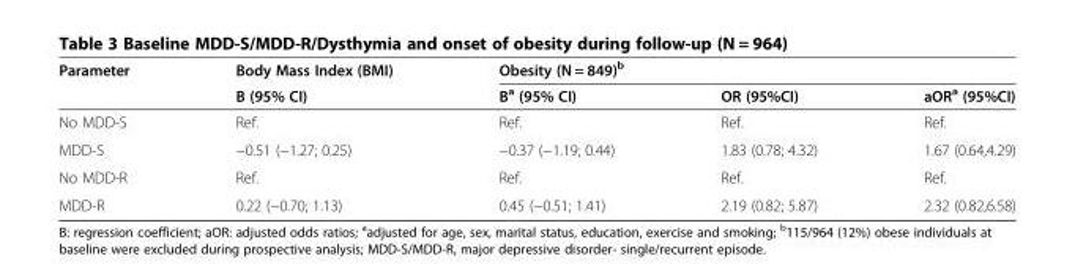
<table><thead><tr><td rowspan="2">Parameter</td><td rowspan="2">Body Mass Index (BMI) B (95% CI)</td><td colspan="3">Obesity (N = 849)<sup>b</sup></td></tr><tr><td>B<sup>a</sup> (95% CI)</td><td>OR (95%CI)</td><td>aOR<sup>a</sup> (95%CI)</td></tr></thead><tbody><tr><td>No MDD-S</td><td>Ref.</td><td>Ref.</td><td>Ref.</td><td>Ref.</td></tr><tr><td>MDD-S</td><td>−0.51 (−1.27; 0.25)</td><td>−0.37 (−1.19; 0.44)</td><td>1.83 (0.78; 4.32)</td><td>1.67 (0.64,4.29)</td></tr><tr><td>No MDD-R</td><td>Ref.</td><td>Ref.</td><td>Ref.</td><td>Ref.</td></tr><tr><td>MDD-R</td><td>0.22 (−0.70; 1.13)</td><td>0.45 (−0.51; 1.41)</td><td>2.19 (0.82; 5.87)</td><td>2.32 (0.82,6.58)</td></tr></tbody></table>